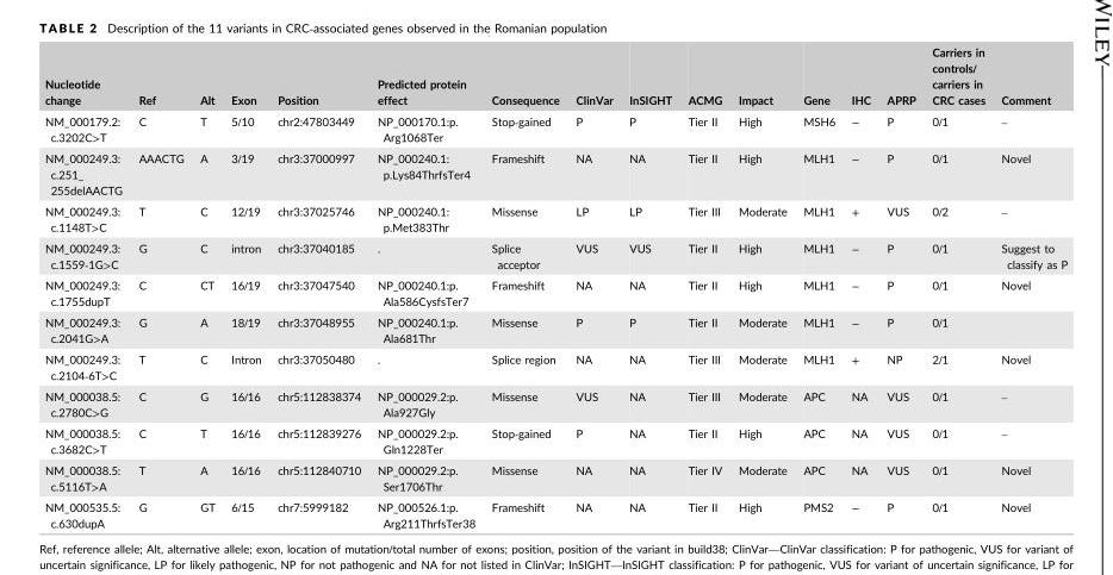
<table><thead><tr><td>Nucleotide change</td><td>Ref</td><td>Alt</td><td>Exon</td><td>Position</td><td>Predicted protein effect</td><td>Consequence</td><td>ClinVar</td><td>InSIGHT</td><td>ACMG</td><td>Impact</td><td>Gene</td><td>IHC</td><td>APRP</td><td>Carriers in controls/ carriers in CRC cases</td><td>Comment</td></tr></thead><tbody><tr><td>NM_000179.2: c.3202C&gt;T</td><td>C</td><td>T</td><td>5/10</td><td>chr2:47803449</td><td>NP_000170.1:p. Arg1068Ter</td><td>Stop‐gained</td><td>P</td><td>P</td><td>Tier II</td><td>High</td><td>MSH6</td><td>−</td><td>P</td><td>0/1</td><td>–</td></tr><tr><td>NM_000249.3: c.251_ 255delAACTG</td><td>AAACTG</td><td>A</td><td>3/19</td><td>chr3:37000997</td><td>NP_000240.1: p.Lys84ThrfsTer4</td><td>Frameshift</td><td>NA</td><td>NA</td><td>Tier II</td><td>High</td><td>MLH1</td><td>−</td><td>P</td><td>0/1</td><td>Novel</td></tr><tr><td>NM_000249.3: c.1148T&gt;C</td><td>T</td><td>C</td><td>12/19</td><td>chr3:37025746</td><td>NP_000240.1: p.Met383Thr</td><td>Missense</td><td>LP</td><td>LP</td><td>Tier III</td><td>Moderate</td><td>MLH1</td><td>+</td><td>VUS</td><td>0/2</td><td>–</td></tr><tr><td>NM_000249.3: c.1559‐1G&gt;C</td><td>G</td><td>C</td><td>intron</td><td>chr3:37040185</td><td>.</td><td>Splice acceptor</td><td>VUS</td><td>VUS</td><td>Tier II</td><td>High</td><td>MLH1</td><td>−</td><td>P</td><td>0/1</td><td>Suggest to classify as P</td></tr><tr><td>NM_000249.3: c.1755dupT</td><td>C</td><td>CT</td><td>16/19</td><td>chr3:37047540</td><td>NP_000240.1:p. Ala586CysfsTer7</td><td>Frameshift</td><td>NA</td><td>NA</td><td>Tier II</td><td>High</td><td>MLH1</td><td>−</td><td>P</td><td>0/1</td><td>Novel</td></tr><tr><td>NM_000249.3: c.2041G&gt;A</td><td>G</td><td>A</td><td>18/19</td><td>chr3:37048955</td><td>NP_000240.1:p. Ala681Thr</td><td>Missense</td><td>P</td><td>P</td><td>Tier II</td><td>Moderate</td><td>MLH1</td><td>−</td><td>P</td><td>0/1</td><td></td></tr><tr><td>NM_000249.3: c.2104‐6T&gt;C</td><td>T</td><td>C</td><td>Intron</td><td>chr3:37050480</td><td>.</td><td>Splice region</td><td>NA</td><td>NA</td><td>Tier III</td><td>Moderate</td><td>MLH1</td><td>+</td><td>NP</td><td>2/1</td><td>Novel</td></tr><tr><td>NM_000038.5: c.2780C&gt;G</td><td>C</td><td>G</td><td>16/16</td><td>chr5:112838374</td><td>NP_000029.2:p. Ala927Gly</td><td>Missense</td><td>VUS</td><td>NA</td><td>Tier III</td><td>Moderate</td><td>APC</td><td>NA</td><td>VUS</td><td>0/1</td><td>–</td></tr><tr><td>NM_000038.5: c.3682C&gt;T</td><td>C</td><td>T</td><td>16/16</td><td>chr5:112839276</td><td>NP_000029.2:p. Gln1228Ter</td><td>Stop‐gained</td><td>P</td><td>NA</td><td>Tier II</td><td>High</td><td>APC</td><td>NA</td><td>VUS</td><td>0/1</td><td>–</td></tr><tr><td>NM_000038.5: c.5116T&gt;A</td><td>T</td><td>A</td><td>16/16</td><td>chr5:112840710</td><td>NP_000029.2:p. Ser1706Thr</td><td>Missense</td><td>NA</td><td>NA</td><td>Tier IV</td><td>Moderate</td><td>APC</td><td>NA</td><td>VUS</td><td>0/1</td><td>Novel</td></tr><tr><td>NM_000535.5: c.630dupA</td><td>G</td><td>GT</td><td>6/15</td><td>chr7:5999182</td><td>NP_000526.1:p. Arg211ThrfsTer38</td><td>Frameshift</td><td>NA</td><td>NA</td><td>Tier II</td><td>High</td><td>PMS2</td><td>−</td><td>P</td><td>0/1</td><td>Novel</td></tr></tbody></table>